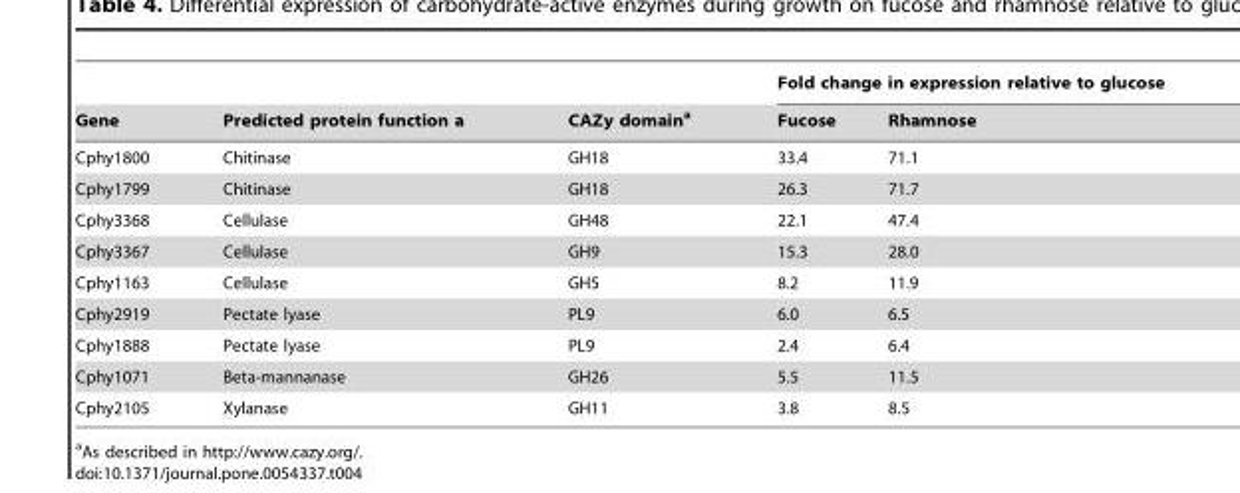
<table><thead><tr><td rowspan="2">Gene</td><td rowspan="2">Predicted protein function a</td><td rowspan="2">CAZy domain<sup>a</sup></td><td colspan="2">Fold change in expression relative to glucose</td></tr><tr><td>Fucose</td><td>Rhamnose</td></tr></thead><tbody><tr><td>Cphy1800</td><td>Chitinase</td><td>GH18</td><td>33.4</td><td>71.1</td></tr><tr><td>Cphy1799</td><td>Chitinase</td><td>GH18</td><td>26.3</td><td>71.7</td></tr><tr><td>Cphy3368</td><td>Cellulase</td><td>GH48</td><td>22.1</td><td>47.4</td></tr><tr><td>Cphy3367</td><td>Cellulase</td><td>GH9</td><td>15.3</td><td>28.0</td></tr><tr><td>Cphy1163</td><td>Cellulase</td><td>GH5</td><td>8.2</td><td>11.9</td></tr><tr><td>Cphy2919</td><td>Pectate lyase</td><td>PL9</td><td>6.0</td><td>6.5</td></tr><tr><td>Cphy1888</td><td>Pectate lyase</td><td>PL9</td><td>2.4</td><td>6.4</td></tr><tr><td>Cphy1071</td><td>Beta-mannanase</td><td>GH26</td><td>5.5</td><td>11.5</td></tr><tr><td>Cphy2105</td><td>Xylanase</td><td>GH11</td><td>3.8</td><td>8.5</td></tr></tbody></table>